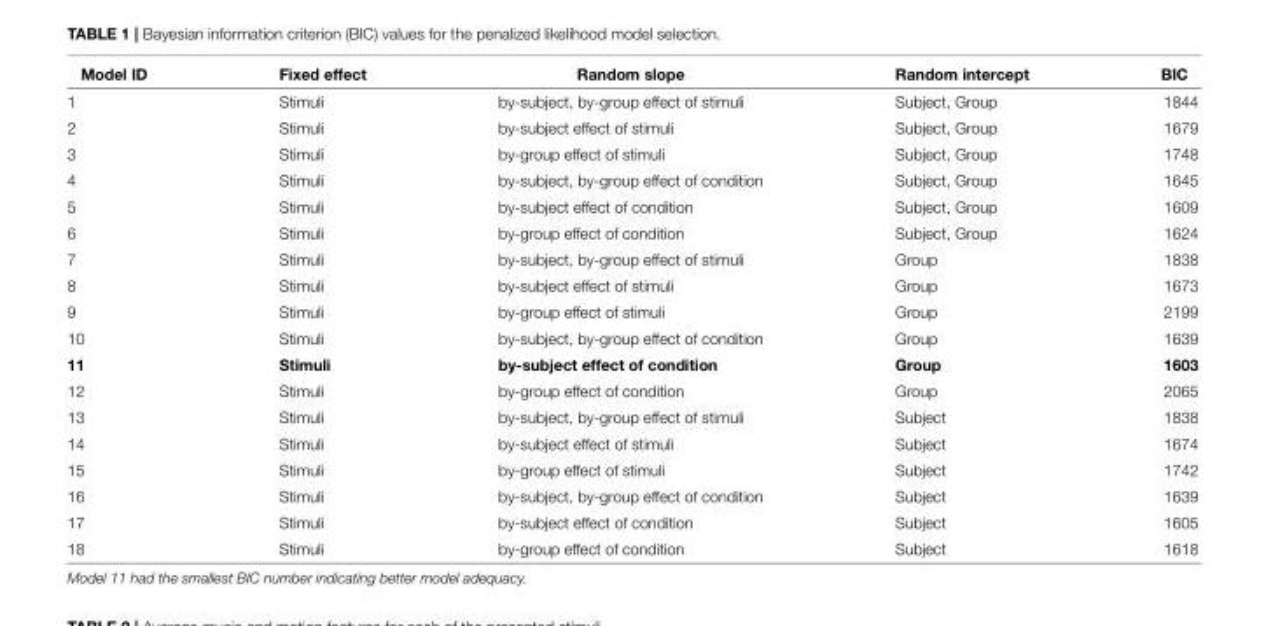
<table><thead><tr><td>Model ID</td><td>Fixed effect</td><td>Random slope</td><td>Random intercept</td><td>BIC</td></tr></thead><tbody><tr><td>1</td><td>Stimuli</td><td>by-subject, by-group effect of stimuli</td><td>Subject, Group</td><td>1844</td></tr><tr><td>2</td><td>Stimuli</td><td>by-subject effect of stimuli</td><td>Subject, Group</td><td>1679</td></tr><tr><td>3</td><td>Stimuli</td><td>by-group effect of stimuli</td><td>Subject, Group</td><td>1748</td></tr><tr><td>4</td><td>Stimuli</td><td>by-subject, by-group effect of condition</td><td>Subject, Group</td><td>1645</td></tr><tr><td>5</td><td>Stimuli</td><td>by-subject effect of condition</td><td>Subject, Group</td><td>1609</td></tr><tr><td>6</td><td>Stimuli</td><td>by-group effect of condition</td><td>Subject, Group</td><td>1624</td></tr><tr><td>7</td><td>Stimuli</td><td>by-subject, by-group effect of stimuli</td><td>Group</td><td>1838</td></tr><tr><td>8</td><td>Stimuli</td><td>by-subject effect of stimuli</td><td>Group</td><td>1673</td></tr><tr><td>9</td><td>Stimuli</td><td>by-group effect of stimuli</td><td>Group</td><td>2199</td></tr><tr><td>10</td><td>Stimuli</td><td>by-subject, by-group effect of condition</td><td>Group</td><td>1639</td></tr><tr><td>11</td><td>Stimuli</td><td>by-subject effect of condition</td><td>Group</td><td>1603</td></tr><tr><td>12</td><td>Stimuli</td><td>by-group effect of condition</td><td>Group</td><td>2065</td></tr><tr><td>13</td><td>Stimuli</td><td>by-subject, by-group effect of stimuli</td><td>Subject</td><td>1838</td></tr><tr><td>14</td><td>Stimuli</td><td>by-subject effect of stimuli</td><td>Subject</td><td>1674</td></tr><tr><td>15</td><td>Stimuli</td><td>by-group effect of stimuli</td><td>Subject</td><td>1742</td></tr><tr><td>16</td><td>Stimuli</td><td>by-subject, by-group effect of condition</td><td>Subject</td><td>1639</td></tr><tr><td>17</td><td>Stimuli</td><td>by-subject effect of condition</td><td>Subject</td><td>1605</td></tr><tr><td>18</td><td>Stimuli</td><td>by-group effect of condition</td><td>Subject</td><td>1618</td></tr></tbody></table>